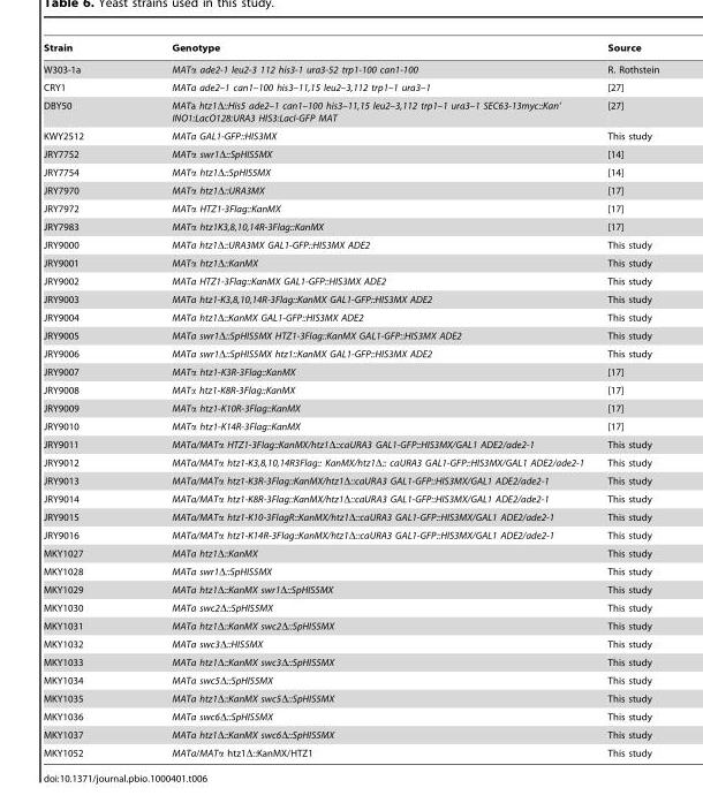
<table><thead><tr><td>Strain</td><td>Genotype</td><td>Source</td></tr></thead><tbody><tr><td>W303-1a</td><td>MATα ade2-1 leu2-3 112 his3-1 ura3-52 trp1-100 can1-100</td><td>R. Rothstein</td></tr><tr><td>CRY1</td><td>MATa ade2–1 can1–100 his3–11,15 leu2–3,112 trp1–1 ura3–1</td><td>[27]</td></tr><tr><td>DBY50</td><td>MATa htz1Δ::His5 ade2–1 can1–100 his3–11,15 leu2–3,112 trp1–1 ura3–1 SEC63-13myc::Kan’ INO1:LacO128:URA3 HIS3:LacI-GFP MAT</td><td>[27]</td></tr><tr><td>KWY2512</td><td>MATa GAL1-GFP::HIS3MX</td><td>This study</td></tr><tr><td>JRY7752</td><td>MATα swr1Δ::SpHIS5MX</td><td>[14]</td></tr><tr><td>JRY7754</td><td>MATα htz1Δ::SpHIS5MX</td><td>[14]</td></tr><tr><td>JRY7970</td><td>MATα htz1Δ::URA3MX</td><td>[17]</td></tr><tr><td>JRY7972</td><td>MATα HTZ1-3Flag::KanMX</td><td>[17]</td></tr><tr><td>JRY7983</td><td>MATα htz1K3,8,10,14R-3Flag::KanMX</td><td>[17]</td></tr><tr><td>JRY9000</td><td>MATa htz1Δ::URA3MX GAL1-GFP::HIS3MX ADE2</td><td>This study</td></tr><tr><td>JRY9001</td><td>MATα htz1Δ::KanMX</td><td>This study</td></tr><tr><td>JRY9002</td><td>MATa HTZ1-3Flag::KanMX GAL1-GFP::HIS3MX ADE2</td><td>This study</td></tr><tr><td>JRY9003</td><td>MATa htz1-K3,8,10,14R-3Flag::KanMX GAL1-GFP::HIS3MX ADE2</td><td>This study</td></tr><tr><td>JRY9004</td><td>MATa htz1Δ::KanMX GAL1-GFP::HIS3MX ADE2</td><td>This study</td></tr><tr><td>JRY9005</td><td>MATa swr1Δ::SpHIS5MX HTZ1-3Flag::KanMX GAL1-GFP::HIS3MX ADE2</td><td>This study</td></tr><tr><td>JRY9006</td><td>MATa swr1Δ::SpHIS5MX htz1::KanMX GAL1-GFP::HIS3MX ADE2</td><td>This study</td></tr><tr><td>JRY9007</td><td>MATα htz1-K3R-3Flag::KanMX</td><td>[17]</td></tr><tr><td>JRY9008</td><td>MATα htz1-K8R-3Flag::KanMX</td><td>[17]</td></tr><tr><td>JRY9009</td><td>MATα htz1-K10R-3Flag::KanMX</td><td>[17]</td></tr><tr><td>JRY9010</td><td>MATα htz1-K14R-3Flag::KanMX</td><td>[17]</td></tr><tr><td>JRY9011</td><td>MATa/MATα HTZ1-3Flag::KanMX/htz1Δ::caURA3 GAL1-GFP::HIS3MX/GAL1 ADE2/ade2-1</td><td>This study</td></tr><tr><td>JRY9012</td><td>MATa/MATα htz1-K3,8,10,14R3Flag:: KanMX/htz1Δ:: caURA3 GAL1-GFP::HIS3MX/GAL1 ADE2/ade2-1</td><td>This study</td></tr><tr><td>JRY9013</td><td>MATa/MATα htz1-K3R-3Flag::KanMX/htz1Δ::caURA3 GAL1-GFP::HIS3MX/GAL1 ADE2/ade2-1</td><td>This study</td></tr><tr><td>JRY9014</td><td>MATa/MATα htz1-K8R-3Flag::KanMX/htz1Δ::caURA3 GAL1-GFP::HIS3MX/GAL1 ADE2/ade2-1</td><td>This study</td></tr><tr><td>JRY9015</td><td>MATa/MATα htz1-K10-3FlagR::KanMX/htz1Δ::caURA3 GAL1-GFP::HIS3MX/GAL1 ADE2/ade2-1</td><td>This study</td></tr><tr><td>JRY9016</td><td>MATa/MATα htz1-K14R-3Flag::KanMX/htz1Δ::caURA3 GAL1-GFP::HIS3MX/GAL1 ADE2/ade2-1</td><td>This study</td></tr><tr><td>MKY1027</td><td>MATa htz1Δ::KanMX</td><td>This study</td></tr><tr><td>MKY1028</td><td>MATa swr1Δ::SpHIS5MX</td><td>This study</td></tr><tr><td>MKY1029</td><td>MATa htz1Δ::KanMX swr1Δ::SpHIS5MX</td><td>This study</td></tr><tr><td>MKY1030</td><td>MATa swc2Δ::SpHIS5MX</td><td>This study</td></tr><tr><td>MKY1031</td><td>MATa htz1Δ::KanMX swc2Δ::SpHIS5MX</td><td>This study</td></tr><tr><td>MKY1032</td><td>MATa swc3Δ::HIS5MX</td><td>This study</td></tr><tr><td>MKY1033</td><td>MATa htz1Δ::KanMX swc3Δ::SpHIS5MX</td><td>This study</td></tr><tr><td>MKY1034</td><td>MATa swc5Δ::SpHIS5MX</td><td>This study</td></tr><tr><td>MKY1035</td><td>MATa htz1Δ::KanMX swc5Δ::SpHIS5MX</td><td>This study</td></tr><tr><td>MKY1036</td><td>MATa swc6Δ::SpHIS5MX</td><td>This study</td></tr><tr><td>MKY1037</td><td>MATa htz1Δ::KanMX swc6Δ::SpHIS5MX</td><td>This study</td></tr><tr><td>MKY1052</td><td>MATa/MATα htz1Δ::KanMX/HTZ1</td><td>This study</td></tr></tbody></table>